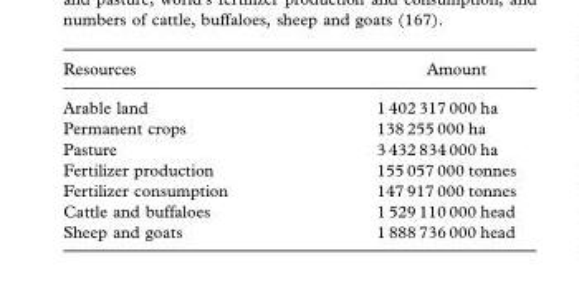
<table><thead><tr><td>Resources</td><td>Amount</td></tr></thead><tbody><tr><td>Arable land</td><td>1 402 317 000 ha</td></tr><tr><td>Permanent crops</td><td>138 255 000 ha</td></tr><tr><td>Pasture</td><td>3 432 834 000 ha</td></tr><tr><td>Fertilizer production</td><td>155 057 000 tonnes</td></tr><tr><td>Fertilizer consumption</td><td>147 917 000 tonnes</td></tr><tr><td>Cattle and buffaloes</td><td>1 529 110 000 head</td></tr><tr><td>Sheep and goats</td><td>1 888 736 000 head</td></tr></tbody></table>